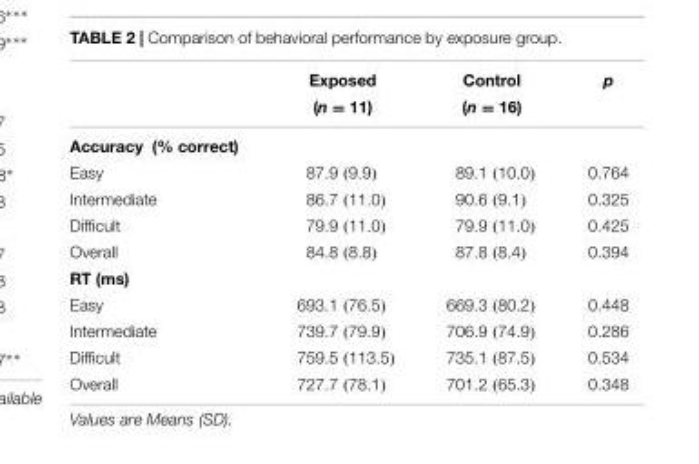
<table><thead><tr><td rowspan="2"></td><td rowspan="2">Exposed (n = 11)</td><td rowspan="2">Control (n = 16)</td><td rowspan="2">p</td></tr><tr></tr></thead><tbody><tr><td colspan="4">Accuracy (% correct)</td></tr><tr><td>Easy</td><td>87.9 (9.9)</td><td>89.1 (10.0)</td><td>0.764</td></tr><tr><td>Intermediate</td><td>86.7 (11.0)</td><td>90.6 (9.1)</td><td>0.325</td></tr><tr><td>Difficult</td><td>79.9 (11.0)</td><td>79.9 (11.0)</td><td>0.425</td></tr><tr><td>Overall</td><td>84.8 (8.8)</td><td>87.8 (8.4)</td><td>0.394</td></tr><tr><td colspan="4">RT (ms)</td></tr><tr><td>Easy</td><td>693.1 (76.5)</td><td>669.3 (80.2)</td><td>0.448</td></tr><tr><td>Intermediate</td><td>739.7 (79.9)</td><td>706.9 (74.9)</td><td>0.286</td></tr><tr><td>Difficult</td><td>759.5 (113.5)</td><td>735.1 (87.5)</td><td>0.534</td></tr><tr><td>Overall</td><td>727.7 (78.1)</td><td>701.2 (65.3)</td><td>0.348</td></tr></tbody></table>